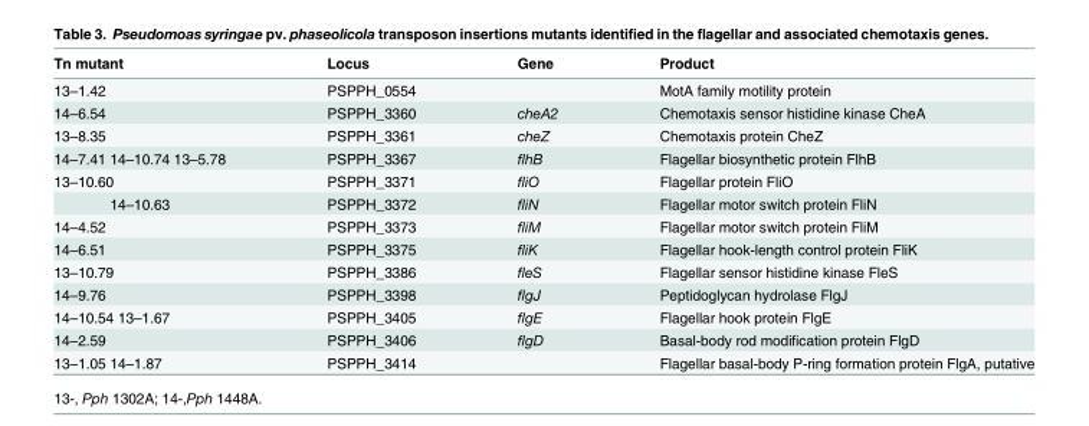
<table><thead><tr><td>Tn mutant</td><td>Locus</td><td>Gene</td><td>Product</td></tr></thead><tbody><tr><td>13–1.42</td><td>PSPPH_0554</td><td></td><td>MotA family motility protein</td></tr><tr><td>14–6.54</td><td>PSPPH_3360</td><td>cheA2</td><td>Chemotaxis sensor histidine kinase CheA</td></tr><tr><td>13–8.35</td><td>PSPPH_3361</td><td>cheZ</td><td>Chemotaxis protein CheZ</td></tr><tr><td>14–7.41 14–10.74 13–5.78</td><td>PSPPH_3367</td><td>flhB</td><td>Flagellar biosynthetic protein FlhB</td></tr><tr><td>13–10.60</td><td>PSPPH_3371</td><td>fliO</td><td>Flagellar protein FliO</td></tr><tr><td>14–10.63</td><td>PSPPH_3372</td><td>fliN</td><td>Flagellar motor switch protein FliN</td></tr><tr><td>14–4.52</td><td>PSPPH_3373</td><td>fliM</td><td>Flagellar motor switch protein FliM</td></tr><tr><td>14–6.51</td><td>PSPPH_3375</td><td>fliK</td><td>Flagellar hook-length control protein FliK</td></tr><tr><td>13–10.79</td><td>PSPPH_3386</td><td>fleS</td><td>Flagellar sensor histidine kinase FleS</td></tr><tr><td>14–9.76</td><td>PSPPH_3398</td><td>flgJ</td><td>Peptidoglycan hydrolase FlgJ</td></tr><tr><td>14–10.54 13–1.67</td><td>PSPPH_3405</td><td>flgE</td><td>Flagellar hook protein FlgE</td></tr><tr><td>14–2.59</td><td>PSPPH_3406</td><td>flgD</td><td>Basal-body rod modification protein FlgD</td></tr><tr><td>13–1.05 14–1.87</td><td>PSPPH_3414</td><td></td><td>Flagellar basal-body P-ring formation protein FlgA, putative</td></tr></tbody></table>